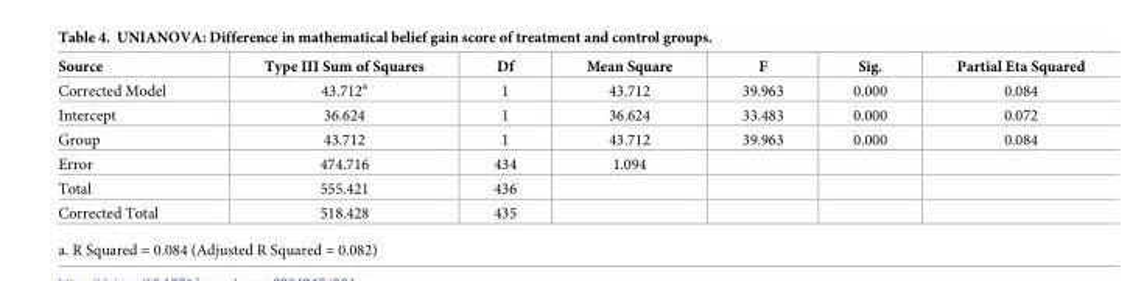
<table><thead><tr><td>Source</td><td>Type III Sum of Squares</td><td>Df</td><td>Mean Square</td><td>F</td><td>Sig.</td><td>Partial Eta Squared</td></tr></thead><tbody><tr><td>Corrected Model</td><td>43.712<sup>a</sup></td><td>1</td><td>43.712</td><td>39.963</td><td>0.000</td><td>0.084</td></tr><tr><td>Intercept</td><td>36.624</td><td>1</td><td>36.624</td><td>33.483</td><td>0.000</td><td>0.072</td></tr><tr><td>Group</td><td>43.712</td><td>1</td><td>43.712</td><td>39.963</td><td>0.000</td><td>0.084</td></tr><tr><td>Error</td><td>474.716</td><td>434</td><td>1.094</td><td></td><td></td><td></td></tr><tr><td>Total</td><td>555.421</td><td>436</td><td></td><td></td><td></td><td></td></tr><tr><td>Corrected Total</td><td>518.428</td><td>435</td><td></td><td></td><td></td><td></td></tr></tbody></table>